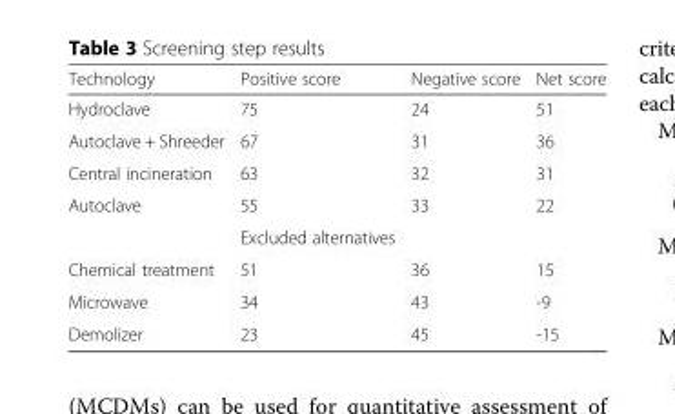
<table><thead><tr><td>Technology</td><td>Positive score</td><td>Negative score</td><td>Net score</td></tr></thead><tbody><tr><td>Hydroclave</td><td>75</td><td>24</td><td>51</td></tr><tr><td>Autoclave + Shreeder</td><td>67</td><td>31</td><td>36</td></tr><tr><td>Central incineration</td><td>63</td><td>32</td><td>31</td></tr><tr><td rowspan="2">Autoclave</td><td>55</td><td>33</td><td>22</td></tr><tr><td>Excluded alternatives</td><td></td><td></td></tr><tr><td>Chemical treatment</td><td>51</td><td>36</td><td>15</td></tr><tr><td>Microwave</td><td>34</td><td>43</td><td>-9</td></tr><tr><td>Demolizer</td><td>23</td><td>45</td><td>-15</td></tr></tbody></table>